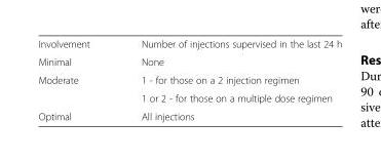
<table><tbody><tr><td>Involvement</td><td>Number of injections supervised in the last 24 h</td></tr><tr><td>Minimal</td><td>None</td></tr><tr><td rowspan="2">Moderate</td><td>1 - for those on a 2 injection regimen</td></tr><tr><td>1 or 2 - for those on a multiple dose regimen</td></tr><tr><td>Optimal</td><td>All injections</td></tr></tbody></table>